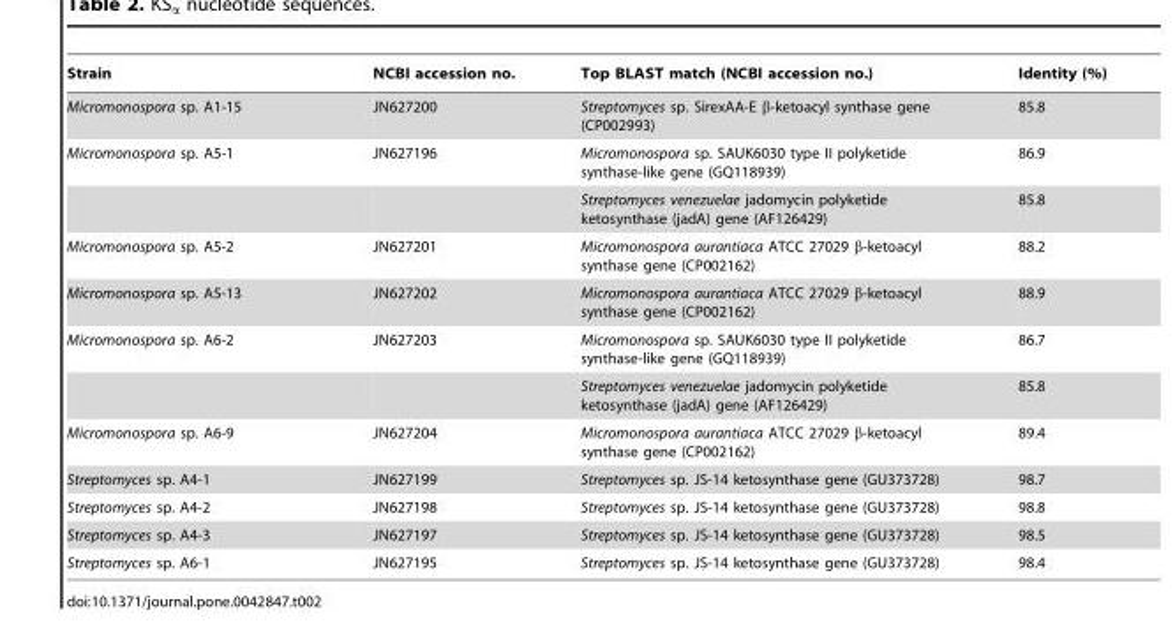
<table><thead><tr><td>Strain</td><td>NCBI accession no.</td><td>Top BLAST match (NCBI accession no.)</td><td>Identity (%)</td></tr></thead><tbody><tr><td>Micromonospora sp. A1-15</td><td>JN627200</td><td>Streptomyces sp. SirexAA-E β-ketoacyl synthase gene (CP002993)</td><td>85.8</td></tr><tr><td rowspan="2">Micromonospora sp. A5-1</td><td>JN627196</td><td>Micromonospora sp. SAUK6030 type II polyketide synthase-like gene (GQ118939)</td><td>86.9</td></tr><tr><td></td><td>Streptomyces venezuelae jadomycin polyketide ketosynthase (jadA) gene (AF126429)</td><td>85.8</td></tr><tr><td>Micromonospora sp. A5-2</td><td>JN627201</td><td>Micromonospora aurantiaca ATCC 27029 β-ketoacyl synthase gene (CP002162)</td><td>88.2</td></tr><tr><td>Micromonospora sp. A5-13</td><td>JN627202</td><td>Micromonospora aurantiaca ATCC 27029 β-ketoacyl synthase gene (CP002162)</td><td>88.9</td></tr><tr><td rowspan="2">Micromonospora sp. A6-2</td><td>JN627203</td><td>Micromonospora sp. SAUK6030 type II polyketide synthase-like gene (GQ118939)</td><td>86.7</td></tr><tr><td></td><td>Streptomyces venezuelae jadomycin polyketide ketosynthase (jadA) gene (AF126429)</td><td>85.8</td></tr><tr><td>Micromonospora sp. A6-9</td><td>JN627204</td><td>Micromonospora aurantiaca ATCC 27029 β-ketoacyl synthase gene (CP002162)</td><td>89.4</td></tr><tr><td>Streptomyces sp. A4-1</td><td>JN627199</td><td>Streptomyces sp. JS-14 ketosynthase gene (GU373728)</td><td>98.7</td></tr><tr><td>Streptomyces sp. A4-2</td><td>JN627198</td><td>Streptomyces sp. JS-14 ketosynthase gene (GU373728)</td><td>98.8</td></tr><tr><td>Streptomyces sp. A4-3</td><td>JN627197</td><td>Streptomyces sp. JS-14 ketosynthase gene (GU373728)</td><td>98.5</td></tr><tr><td>Streptomyces sp. A6-1</td><td>JN627195</td><td>Streptomyces sp. JS-14 ketosynthase gene (GU373728)</td><td>98.4</td></tr></tbody></table>